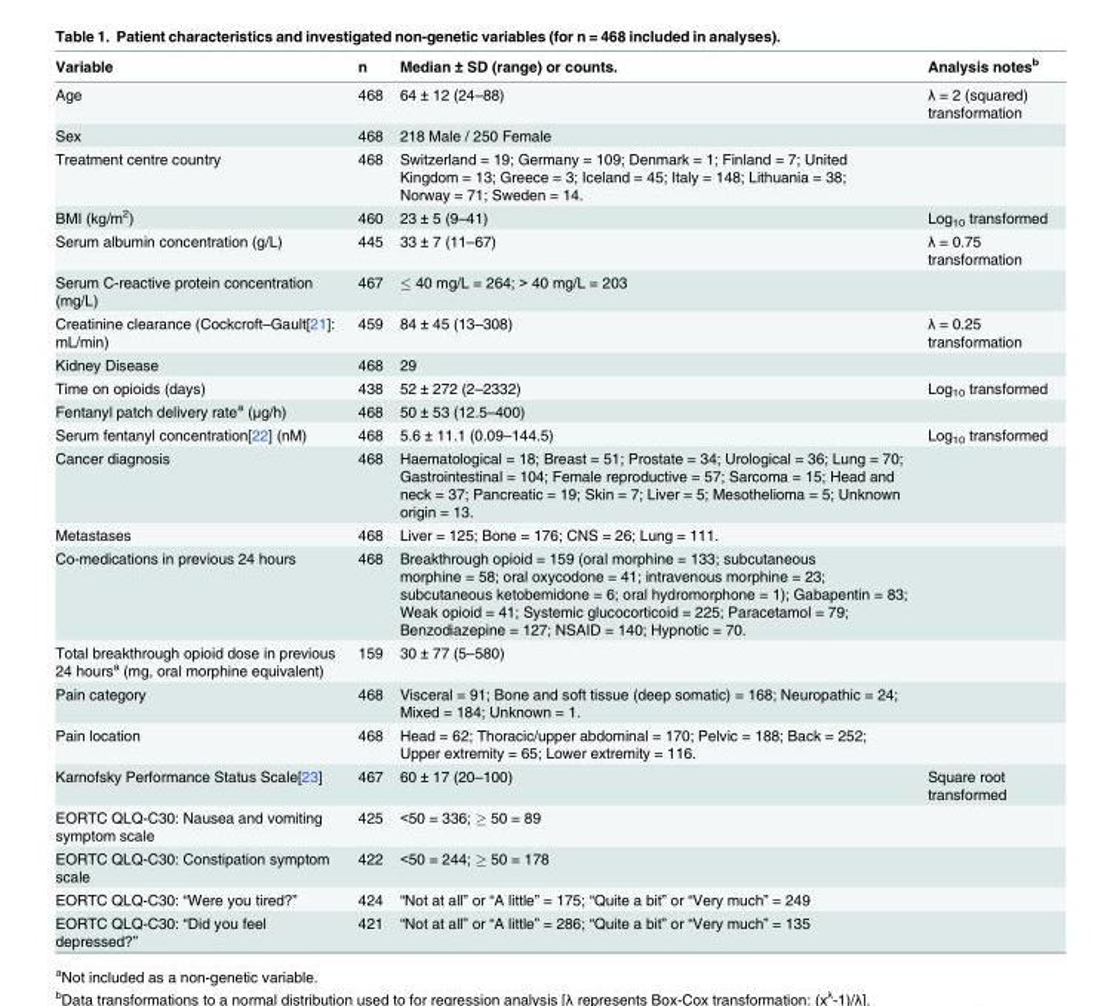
<table><thead><tr><td>Variable</td><td>n</td><td>Median ± SD (range) or counts.</td><td>Analysis notes<sup>b</sup></td></tr></thead><tbody><tr><td>Age</td><td>468</td><td>64 ± 12 (24–88)</td><td>λ = 2 (squared) transformation</td></tr><tr><td>Sex</td><td>468</td><td>218 Male / 250 Female</td><td></td></tr><tr><td>Treatment centre country</td><td>468</td><td>Switzerland = 19; Germany = 109; Denmark = 1; Finland = 7; United Kingdom = 13; Greece = 3; Iceland = 45; Italy = 148; Lithuania = 38; Norway = 71; Sweden = 14.</td><td></td></tr><tr><td>BMI (kg/m<sup>2</sup>)</td><td>460</td><td>23 ± 5 (9–41)</td><td>Log<sub>10</sub> transformed</td></tr><tr><td>Serum albumin concentration (g/L)</td><td>445</td><td>33 ± 7 (11–67)</td><td>λ = 0.75 transformation</td></tr><tr><td>Serum C-reactive protein concentration (mg/L)</td><td>467</td><td>≤ 40 mg/L = 264; &gt; 40 mg/L = 203</td><td></td></tr><tr><td>Creatinine clearance (Cockcroft–Gault[21]: mL/min)</td><td>459</td><td>84 ± 45 (13–308)</td><td>λ = 0.25 transformation</td></tr><tr><td>Kidney Disease</td><td>468</td><td>29</td><td></td></tr><tr><td>Time on opioids (days)</td><td>438</td><td>52 ± 272 (2–2332)</td><td>Log<sub>10</sub> transformed</td></tr><tr><td>Fentanyl patch delivery rate<sup>a</sup> (μg/h)</td><td>468</td><td>50 ± 53 (12.5–400)</td><td></td></tr><tr><td>Serum fentanyl concentration[22] (nM)</td><td>468</td><td>5.6 ± 11.1 (0.09–144.5)</td><td>Log<sub>10</sub> transformed</td></tr><tr><td>Cancer diagnosis</td><td>468</td><td>Haematological = 18; Breast = 51; Prostate = 34; Urological = 36; Lung = 70; Gastrointestinal = 104; Female reproductive = 57; Sarcoma = 15; Head and neck = 37; Pancreatic = 19; Skin = 7; Liver = 5; Mesothelioma = 5; Unknown origin = 13.</td><td></td></tr><tr><td>Metastases</td><td>468</td><td>Liver = 125; Bone = 176; CNS = 26; Lung = 111.</td><td></td></tr><tr><td>Co-medications in previous 24 hours</td><td>468</td><td>Breakthrough opioid = 159 (oral morphine = 133; subcutaneous morphine = 58; oral oxycodone = 41; intravenous morphine = 23; subcutaneous ketobemidone = 6; oral hydromorphone = 1); Gabapentin = 83; Weak opioid = 41; Systemic glucocorticoid = 225; Paracetamol = 79; Benzodiazepine = 127; NSAID = 140; Hypnotic = 70.</td><td></td></tr><tr><td>Total breakthrough opioid dose in previous 24 hours<sup>a</sup> (mg, oral morphine equivalent)</td><td>159</td><td>30 ± 77 (5–580)</td><td></td></tr><tr><td>Pain category</td><td>468</td><td>Visceral = 91; Bone and soft tissue (deep somatic) = 168; Neuropathic = 24; Mixed = 184; Unknown = 1.</td><td></td></tr><tr><td>Pain location</td><td>468</td><td>Head = 62; Thoracic/upper abdominal = 170; Pelvic = 188; Back = 252; Upper extremity = 65; Lower extremity = 116.</td><td></td></tr><tr><td>Karnofsky Performance Status Scale[23]</td><td>467</td><td>60 ± 17 (20–100)</td><td>Square root transformed</td></tr><tr><td>EORTC QLQ-C30: Nausea and vomiting symptom scale</td><td>425</td><td>&lt;50 = 336; ≥ 50 = 89</td><td></td></tr><tr><td>EORTC QLQ-C30: Constipation symptom scale</td><td>422</td><td>&lt;50 = 244; ≥ 50 = 178</td><td></td></tr><tr><td>EORTC QLQ-C30: “Were you tired?”</td><td>424</td><td>“Not at all” or “A little” = 175; “Quite a bit” or “Very much” = 249</td><td></td></tr><tr><td>EORTC QLQ-C30: “Did you feel depressed?”</td><td>421</td><td>“Not at all” or “A little” = 286; “Quite a bit” or “Very much” = 135</td><td></td></tr></tbody></table>